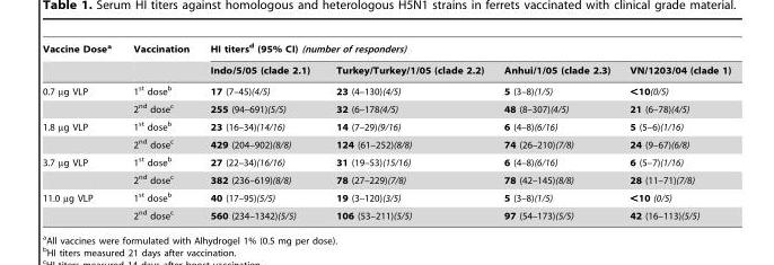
<table><thead><tr><td rowspan="2">Vaccine Dose<sup>a</sup></td><td rowspan="2">Vaccination</td><td colspan="4">HI titers<sup>d</sup> (95% CI) (number of responders)</td></tr><tr><td>Indo/5/05 (clade 2.1)</td><td>Turkey/Turkey/1/05 (clade 2.2)</td><td>Anhui/1/05 (clade 2.3)</td><td>VN/1203/04 (clade 1)</td></tr></thead><tbody><tr><td rowspan="2">0.7 µg VLP</td><td>1<sup>st</sup> dose<sup>b</sup></td><td>17 (7–45)(4/5)</td><td>23 (4–130)(4/5)</td><td>5 (3–8)(1/5)</td><td>&lt;10(0/5)</td></tr><tr><td>2<sup>nd</sup> dose<sup>c</sup></td><td>255 (94–691)(5/5)</td><td>32 (6–178(4/5)</td><td>48 (8–307)(4/5)</td><td>21 (6–78)(4/5)</td></tr><tr><td rowspan="2">1.8 µg VLP</td><td>1<sup>st</sup> dose<sup>b</sup></td><td>23 (16–34)(14/16)</td><td>14 (7–29)(9/16)</td><td>6 (4–8)(6/16)</td><td>5 (5–6)(1/16)</td></tr><tr><td>2<sup>nd</sup> dose<sup>c</sup></td><td>429 (204–902)(8/8)</td><td>124 (61–252)(8/8)</td><td>74 (26–210)(7/8)</td><td>24 (9–67)(6/8)</td></tr><tr><td rowspan="2">3.7 µg VLP</td><td>1<sup>st</sup> dose<sup>b</sup></td><td>27 (22–34)(16/16)</td><td>31 (19–53)(15/16)</td><td>6 (4–8)(6/16)</td><td>6 (5–7)(1/16)</td></tr><tr><td>2<sup>nd</sup> dose<sup>c</sup></td><td>382 (236–619)(8/8)</td><td>78 (27–229)(7/8)</td><td>78 (42–145)(8/8)</td><td>28 (11–71)(7/8)</td></tr><tr><td rowspan="2">11.0 µg VLP</td><td>1<sup>st</sup> dose<sup>b</sup></td><td>40 (17–95)(5/5)</td><td>19 (3–120)(3/5)</td><td>5 (3–8)(1/5)</td><td>&lt;10 (0/5)</td></tr><tr><td>2<sup>nd</sup> dose<sup>c</sup></td><td>560 (234–1342)(5/5)</td><td>106 (53–211)(5/5)</td><td>97 (54–173)(5/5)</td><td>42 (16–113)(5/5)</td></tr></tbody></table>